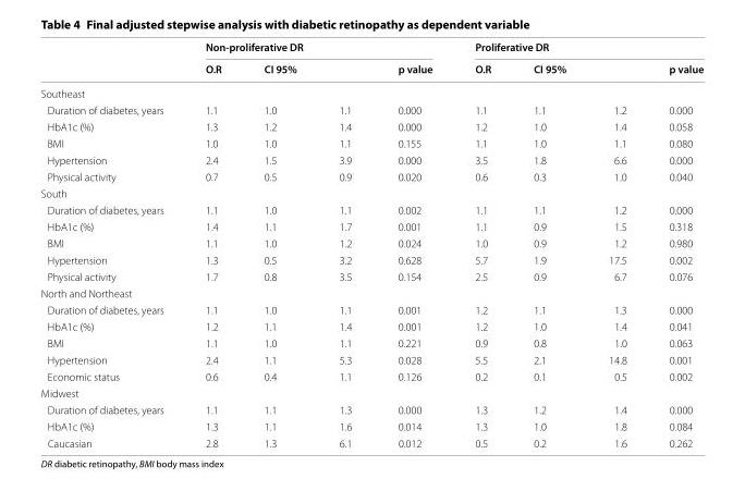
<table><thead><tr><td rowspan="2"></td><td colspan="4">Non-proliferative DR</td><td colspan="4">Proliferative DR</td></tr><tr><td>O.R</td><td>CI 95%</td><td></td><td>p value</td><td>O.R</td><td>CI 95%</td><td></td><td>p value</td></tr></thead><tbody><tr><td colspan="9">Southeast</td></tr><tr><td>Duration of diabetes, years</td><td>1.1</td><td>1.0</td><td>1.1</td><td>0.000</td><td>1.1</td><td>1.1</td><td>1.2</td><td>0.000</td></tr><tr><td>HbA1c (%)</td><td>1.3</td><td>1.2</td><td>1.4</td><td>0.000</td><td>1.2</td><td>1.0</td><td>1.4</td><td>0.058</td></tr><tr><td>BMI</td><td>1.0</td><td>1.0</td><td>1.1</td><td>0.155</td><td>1.1</td><td>1.0</td><td>1.1</td><td>0.080</td></tr><tr><td>Hypertension</td><td>2.4</td><td>1.5</td><td>3.9</td><td>0.000</td><td>3.5</td><td>1.8</td><td>6.6</td><td>0.000</td></tr><tr><td>Physical activity</td><td>0.7</td><td>0.5</td><td>0.9</td><td>0.020</td><td>0.6</td><td>0.3</td><td>1.0</td><td>0.040</td></tr><tr><td colspan="9">South</td></tr><tr><td>Duration of diabetes, years</td><td>1.1</td><td>1.0</td><td>1.1</td><td>0.002</td><td>1.1</td><td>1.1</td><td>1.2</td><td>0.000</td></tr><tr><td>HbA1c (%)</td><td>1.4</td><td>1.1</td><td>1.7</td><td>0.001</td><td>1.1</td><td>0.9</td><td>1.5</td><td>0.318</td></tr><tr><td>BMI</td><td>1.1</td><td>1.0</td><td>1.2</td><td>0.024</td><td>1.0</td><td>0.9</td><td>1.2</td><td>0.980</td></tr><tr><td>Hypertension</td><td>1.3</td><td>0.5</td><td>3.2</td><td>0.628</td><td>5.7</td><td>1.9</td><td>17.5</td><td>0.002</td></tr><tr><td>Physical activity</td><td>1.7</td><td>0.8</td><td>3.5</td><td>0.154</td><td>2.5</td><td>0.9</td><td>6.7</td><td>0.076</td></tr><tr><td colspan="9">North and Northeast</td></tr><tr><td>Duration of diabetes, years</td><td>1.1</td><td>1.0</td><td>1.1</td><td>0.001</td><td>1.2</td><td>1.1</td><td>1.3</td><td>0.000</td></tr><tr><td>HbA1c (%)</td><td>1.2</td><td>1.1</td><td>1.4</td><td>0.001</td><td>1.2</td><td>1.0</td><td>1.4</td><td>0.041</td></tr><tr><td>BMI</td><td>1.1</td><td>1.0</td><td>1.1</td><td>0.221</td><td>0.9</td><td>0.8</td><td>1.0</td><td>0.063</td></tr><tr><td>Hypertension</td><td>2.4</td><td>1.1</td><td>5.3</td><td>0.028</td><td>5.5</td><td>2.1</td><td>14.8</td><td>0.001</td></tr><tr><td>Economic status</td><td>0.6</td><td>0.4</td><td>1.1</td><td>0.126</td><td>0.2</td><td>0.1</td><td>0.5</td><td>0.002</td></tr><tr><td colspan="9">Midwest</td></tr><tr><td>Duration of diabetes, years</td><td>1.1</td><td>1.1</td><td>1.3</td><td>0.000</td><td>1.3</td><td>1.2</td><td>1.4</td><td>0.000</td></tr><tr><td>HbA1c (%)</td><td>1.3</td><td>1.1</td><td>1.6</td><td>0.014</td><td>1.3</td><td>1.0</td><td>1.8</td><td>0.084</td></tr><tr><td>Caucasian</td><td>2.8</td><td>1.3</td><td>6.1</td><td>0.012</td><td>0.5</td><td>0.2</td><td>1.6</td><td>0.262</td></tr></tbody></table>